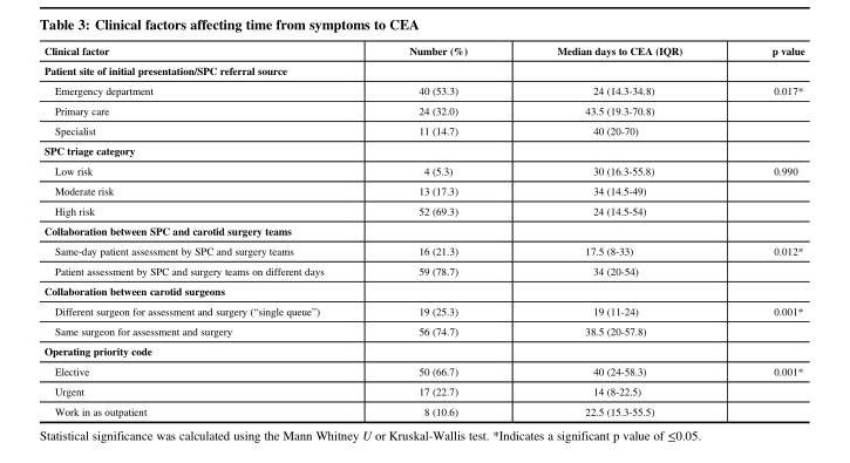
<table><thead><tr><td>Clinical factor</td><td>Number (%)</td><td>Median days to CEA (IQR)</td><td>p value</td></tr></thead><tbody><tr><td colspan="4">Patient site of initial presentation/SPC referral source</td></tr><tr><td>Emergency department</td><td>40 (53.3)</td><td>24 (14.3-34.8)</td><td>0.017*</td></tr><tr><td>Primary care</td><td>24 (32.0)</td><td>43.5 (19.3-70.8)</td><td></td></tr><tr><td>Specialist</td><td>11 (14.7)</td><td>40 (20-70)</td><td></td></tr><tr><td colspan="4">SPC triage category</td></tr><tr><td>Low risk</td><td>4 (5.3)</td><td>30 (16.3-55.8)</td><td>0.990</td></tr><tr><td>Moderate risk</td><td>13 (17.3)</td><td>34 (14.5-49)</td><td></td></tr><tr><td>High risk</td><td>52 (69.3)</td><td>24 (14.5-54)</td><td></td></tr><tr><td colspan="4">Collaboration between SPC and carotid surgery teams</td></tr><tr><td>Same-day patient assessment by SPC and surgery teams</td><td>16 (21.3)</td><td>17.5 (8-33)</td><td>0.012*</td></tr><tr><td>Patient assessment by SPC and surgery teams on different days</td><td>59 (78.7)</td><td>34 (20-54)</td><td></td></tr><tr><td colspan="4">Collaboration between carotid surgeons</td></tr><tr><td>Different surgeon for assessment and surgery (“single queue”)</td><td>19 (25.3)</td><td>19 (11-24)</td><td>0.001*</td></tr><tr><td>Same surgeon for assessment and surgery</td><td>56 (74.7)</td><td>38.5 (20-57.8)</td><td></td></tr><tr><td colspan="4">Operating priority code</td></tr><tr><td>Elective</td><td>50 (66.7)</td><td>40 (24-58.3)</td><td>0.001*</td></tr><tr><td>Urgent</td><td>17 (22.7)</td><td>14 (8-22.5)</td><td></td></tr><tr><td>Work in as outpatient</td><td>8 (10.6)</td><td>22.5 (15.3-55.5)</td><td></td></tr></tbody></table>